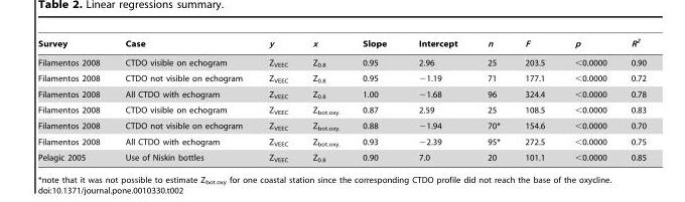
<table><thead><tr><td>Survey</td><td>Case</td><td>y</td><td>x</td><td>Slope</td><td>Intercept</td><td>n</td><td>F</td><td>p</td><td>R<sup>2</sup></td></tr></thead><tbody><tr><td>Filamentos 2008</td><td>CTDO visible on echogram</td><td>Z<sub>VEEC</sub></td><td>Z<sub>0.8</sub></td><td>0.95</td><td>2.96</td><td>25</td><td>203.5</td><td>&lt;0.0000</td><td>0.90</td></tr><tr><td>Filamentos 2008</td><td>CTDO not visible on echogram</td><td>Z<sub>VEEC</sub></td><td>Z<sub>0.8</sub></td><td>0.95</td><td>−1.19</td><td>71</td><td>177.1</td><td>&lt;0.0000</td><td>0.72</td></tr><tr><td>Filamentos 2008</td><td>All CTDO with echogram</td><td>Z<sub>VEEC</sub></td><td>Z<sub>0.8</sub></td><td>1.00</td><td>−1.68</td><td>96</td><td>324.4</td><td>&lt;0.0000</td><td>0.78</td></tr><tr><td>Filamentos 2008</td><td>CTDO visible on echogram</td><td>Z<sub>VEEC</sub></td><td>Z<sub>bot.oxy.</sub></td><td>0.87</td><td>2.59</td><td>25</td><td>108.5</td><td>&lt;0.0000</td><td>0.83</td></tr><tr><td>Filamentos 2008</td><td>CTDO not visible on echogram</td><td>Z<sub>VEEC</sub></td><td>Z<sub>bot.oxy.</sub></td><td>0.88</td><td>−1.94</td><td>70*</td><td>154.6</td><td>&lt;0.0000</td><td>0.70</td></tr><tr><td>Filamentos 2008</td><td>All CTDO with echogram</td><td>Z<sub>VEEC</sub></td><td>Z<sub>bot.oxy.</sub></td><td>0.93</td><td>−2.39</td><td>95*</td><td>272.5</td><td>&lt;0.0000</td><td>0.75</td></tr><tr><td>Pelagic 2005</td><td>Use of Niskin bottles</td><td>Z<sub>VEEC</sub></td><td>Z<sub>0.8</sub></td><td>0.90</td><td>7.0</td><td>20</td><td>101.1</td><td>&lt;0.0000</td><td>0.85</td></tr></tbody></table>